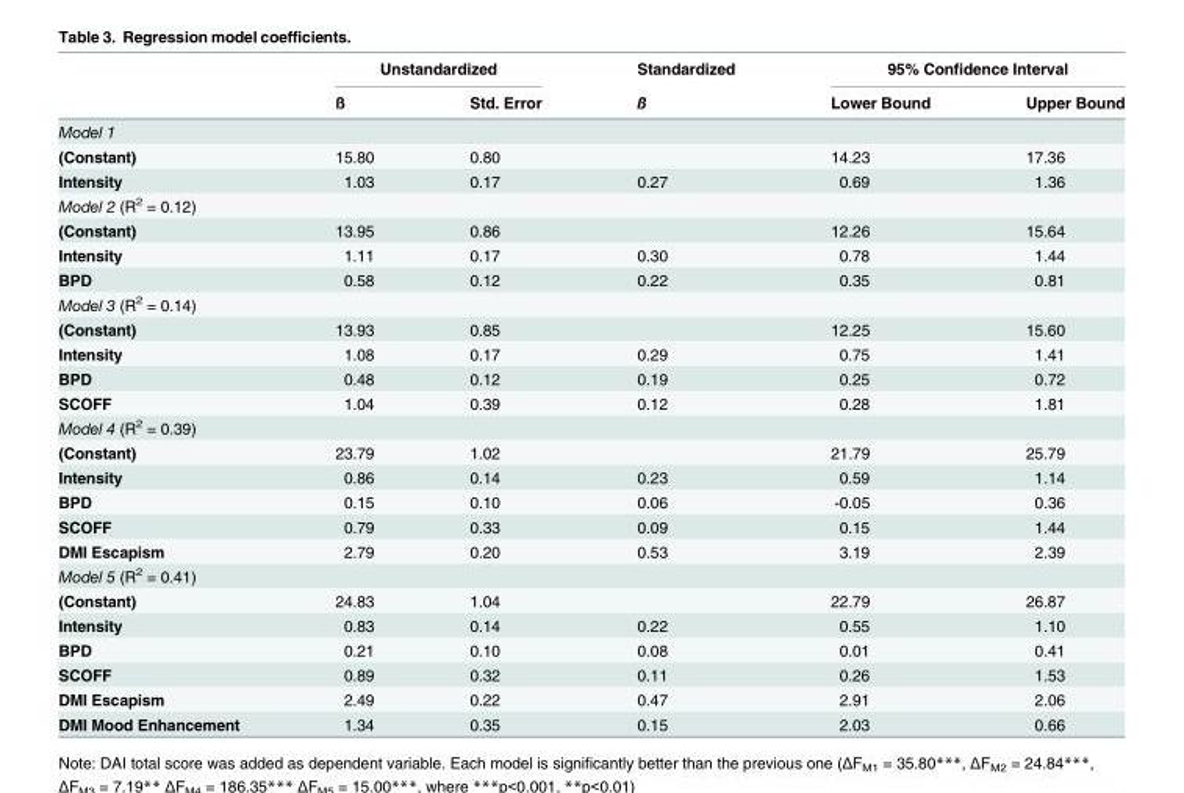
<table><thead><tr><td rowspan="2"></td><td colspan="2">Unstandardized</td><td rowspan="2">Standardized ß</td><td colspan="2">95% Confidence Interval</td></tr><tr><td>ß</td><td>Std. Error</td><td>Lower Bound</td><td>Upper Bound</td></tr></thead><tbody><tr><td colspan="6">Model 1</td></tr><tr><td>(Constant)</td><td>15.80</td><td>0.80</td><td></td><td>14.23</td><td>17.36</td></tr><tr><td>Intensity</td><td>1.03</td><td>0.17</td><td>0.27</td><td>0.69</td><td>1.36</td></tr><tr><td colspan="6">Model 2 (R<sup>2</sup> = 0.12)</td></tr><tr><td>(Constant)</td><td>13.95</td><td>0.86</td><td></td><td>12.26</td><td>15.64</td></tr><tr><td>Intensity</td><td>1.11</td><td>0.17</td><td>0.30</td><td>0.78</td><td>1.44</td></tr><tr><td>BPD</td><td>0.58</td><td>0.12</td><td>0.22</td><td>0.35</td><td>0.81</td></tr><tr><td colspan="6">Model 3 (R<sup>2</sup> = 0.14)</td></tr><tr><td>(Constant)</td><td>13.93</td><td>0.85</td><td></td><td>12.25</td><td>15.60</td></tr><tr><td>Intensity</td><td>1.08</td><td>0.17</td><td>0.29</td><td>0.75</td><td>1.41</td></tr><tr><td>BPD</td><td>0.48</td><td>0.12</td><td>0.19</td><td>0.25</td><td>0.72</td></tr><tr><td>SCOFF</td><td>1.04</td><td>0.39</td><td>0.12</td><td>0.28</td><td>1.81</td></tr><tr><td colspan="6">Model 4 (R<sup>2</sup> = 0.39)</td></tr><tr><td>(Constant)</td><td>23.79</td><td>1.02</td><td></td><td>21.79</td><td>25.79</td></tr><tr><td>Intensity</td><td>0.86</td><td>0.14</td><td>0.23</td><td>0.59</td><td>1.14</td></tr><tr><td>BPD</td><td>0.15</td><td>0.10</td><td>0.06</td><td>-0.05</td><td>0.36</td></tr><tr><td>SCOFF</td><td>0.79</td><td>0.33</td><td>0.09</td><td>0.15</td><td>1.44</td></tr><tr><td>DMI Escapism</td><td>2.79</td><td>0.20</td><td>0.53</td><td>3.19</td><td>2.39</td></tr><tr><td colspan="6">Model 5 (R<sup>2</sup> = 0.41)</td></tr><tr><td>(Constant)</td><td>24.83</td><td>1.04</td><td></td><td>22.79</td><td>26.87</td></tr><tr><td>Intensity</td><td>0.83</td><td>0.14</td><td>0.22</td><td>0.55</td><td>1.10</td></tr><tr><td>BPD</td><td>0.21</td><td>0.10</td><td>0.08</td><td>0.01</td><td>0.41</td></tr><tr><td>SCOFF</td><td>0.89</td><td>0.32</td><td>0.11</td><td>0.26</td><td>1.53</td></tr><tr><td>DMI Escapism</td><td>2.49</td><td>0.22</td><td>0.47</td><td>2.91</td><td>2.06</td></tr><tr><td>DMI Mood Enhancement</td><td>1.34</td><td>0.35</td><td>0.15</td><td>2.03</td><td>0.66</td></tr></tbody></table>